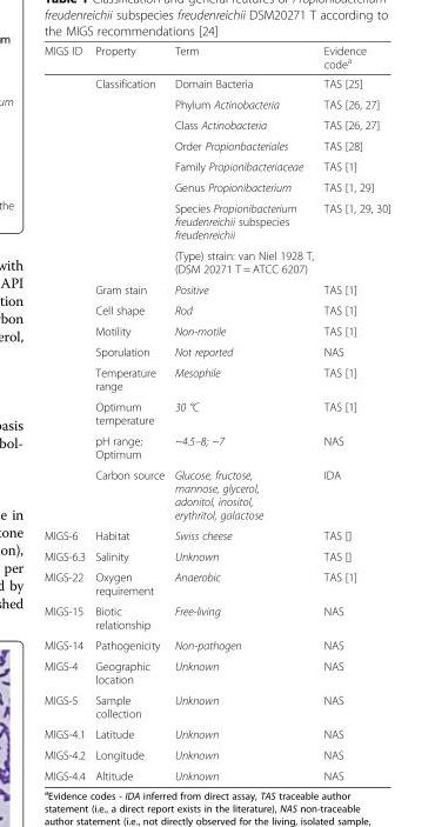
<table><thead><tr><td>MIGS ID</td><td>Property</td><td>Term</td><td>Evidence code<sup>a</sup></td></tr></thead><tbody><tr><td></td><td>Classification</td><td>Domain Bacteria</td><td>TAS [25]</td></tr><tr><td></td><td></td><td>Phylum Actinobacteria</td><td>TAS [26, 27]</td></tr><tr><td></td><td></td><td>Class Actinobacteria</td><td>TAS [26, 27]</td></tr><tr><td></td><td></td><td>Order Propionbacteriales</td><td>TAS [28]</td></tr><tr><td></td><td></td><td>Family Propionibacteriaceae</td><td>TAS [1]</td></tr><tr><td></td><td></td><td>Genus Propionibacterium</td><td>TAS [1, 29]</td></tr><tr><td></td><td></td><td>Species Propionibacterium freudenreichii subspecies freudenreichii</td><td>TAS [1, 29, 30]</td></tr><tr><td></td><td></td><td>(Type) strain: van Niel 1928 T, (DSM 20271 T = ATCC 6207)</td><td></td></tr><tr><td></td><td>Gram stain</td><td>Positive</td><td>TAS [1]</td></tr><tr><td></td><td>Cell shape</td><td>Rod</td><td>TAS [1]</td></tr><tr><td></td><td>Motility</td><td>Non-motile</td><td>TAS [1]</td></tr><tr><td></td><td>Sporulation</td><td>Not reported</td><td>NAS</td></tr><tr><td></td><td>Temperature range</td><td>Mesophile</td><td>TAS [1]</td></tr><tr><td></td><td>Optimum temperature</td><td>30 °C</td><td>TAS [1]</td></tr><tr><td></td><td>pH range; Optimum</td><td>~4.5–8; ~7</td><td>NAS</td></tr><tr><td></td><td>Carbon source</td><td>Glucose, fructose, mannose, glycerol, adonitol, inositol, erythritol, galactose</td><td>IDA</td></tr><tr><td>MIGS-6</td><td>Habitat</td><td>Swiss cheese</td><td>TAS []</td></tr><tr><td>MIGS-6.3</td><td>Salinity</td><td>Unknown</td><td>TAS []</td></tr><tr><td>MIGS-22</td><td>Oxygen requirement</td><td>Anaerobic</td><td>TAS [1]</td></tr><tr><td>MIGS-15</td><td>Biotic relationship</td><td>Free-living</td><td>NAS</td></tr><tr><td>MIGS-14</td><td>Pathogenicity</td><td>Non-pathogen</td><td>NAS</td></tr><tr><td>MIGS-4</td><td>Geographic location</td><td>Unknown</td><td>NAS</td></tr><tr><td>MIGS-5</td><td>Sample collection</td><td>Unknown</td><td>NAS</td></tr><tr><td>MIGS-4.1</td><td>Latitude</td><td>Unknown</td><td>NAS</td></tr><tr><td>MIGS-4.2</td><td>Longitude</td><td>Unknown</td><td>NAS</td></tr><tr><td>MIGS-4.4</td><td>Altitude</td><td>Unknown</td><td>NAS</td></tr></tbody></table>